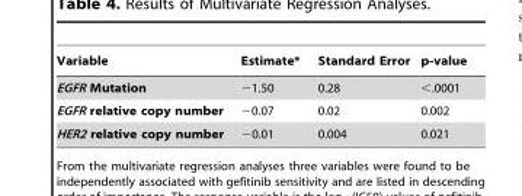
<table><thead><tr><td>Variable</td><td>Estimate*</td><td>Standard Error</td><td>p-value</td></tr></thead><tbody><tr><td>EGFR Mutation</td><td>−1.50</td><td>0.28</td><td>&lt;.0001</td></tr><tr><td>EGFR relative copy number</td><td>−0.07</td><td>0.02</td><td>0.002</td></tr><tr><td>HER2 relative copy number</td><td>−0.01</td><td>0.004</td><td>0.021</td></tr></tbody></table>